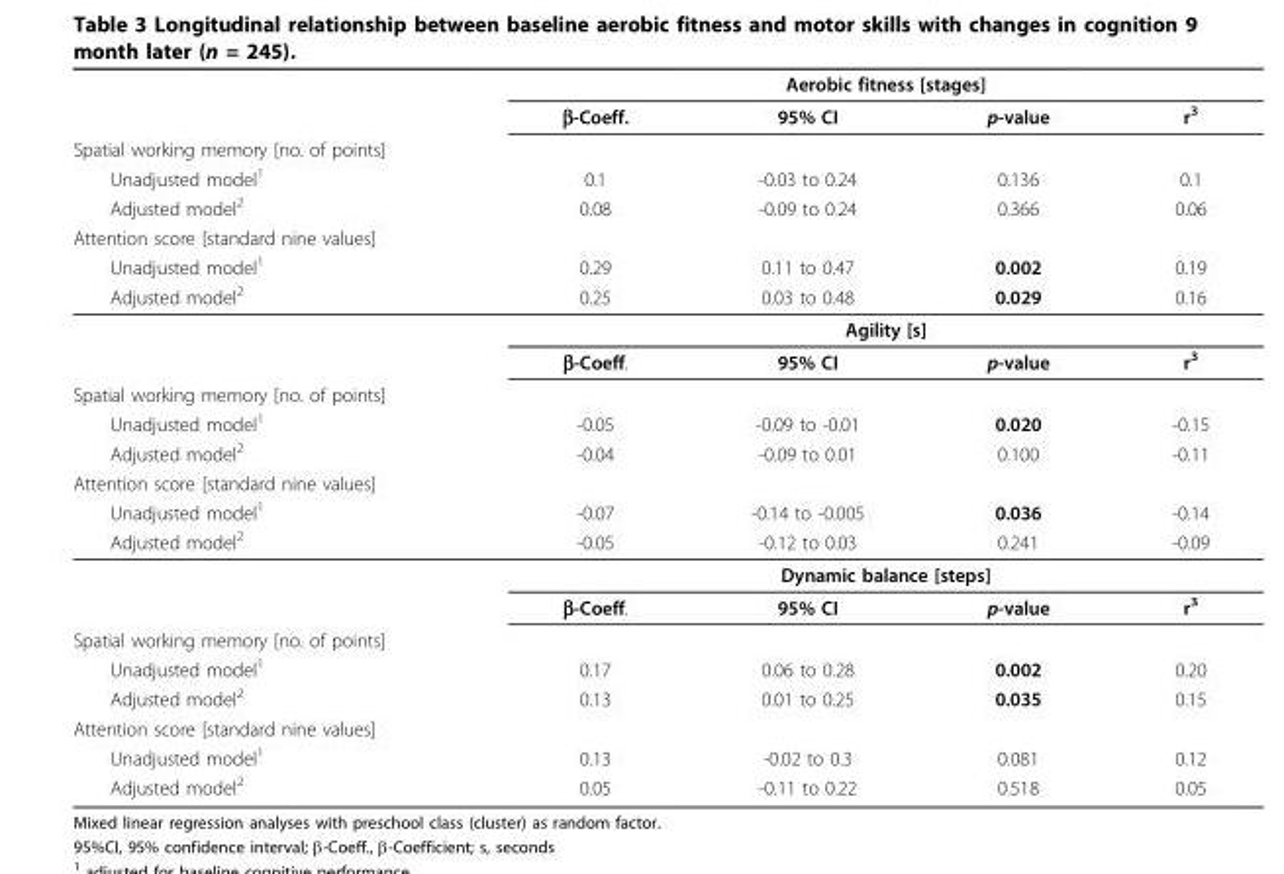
<table><thead><tr><td rowspan="8">Spatial working memory [no. of points] Unadjusted model1 Adjusted model2 Attention score [standard nine values] Unadjusted model1 Adjusted model2</td><td colspan="4">Aerobic fitness [stages]</td></tr><tr><td rowspan="7">β-Coeff. 0.1 0.08 0.29 0.25</td><td rowspan="7">95% CI -0.03 to 0.24 -0.09 to 0.24 0.11 to 0.47 0.03 to 0.48</td><td rowspan="7">p-value 0.136 0.366 0.002 0.029</td><td rowspan="7">r3 0.1 0.06 0.19 0.16</td></tr><tr></tr><tr></tr><tr></tr><tr></tr><tr></tr><tr></tr></thead><tbody><tr><td></td><td colspan="4">Agility [s]</td></tr><tr><td></td><td>β-Coeff.</td><td>95% CI</td><td>p-value</td><td>r<sup>3</sup></td></tr><tr><td colspan="5">Spatial working memory [no. of points]</td></tr><tr><td>Unadjusted model<sup>1</sup></td><td>-0.05</td><td>-0.09 to -0.01</td><td>0.020</td><td>-0.15</td></tr><tr><td>Adjusted model<sup>2</sup></td><td>-0.04</td><td>-0.09 to 0.01</td><td>0.100</td><td>-0.11</td></tr><tr><td colspan="5">Attention score [standard nine values]</td></tr><tr><td>Unadjusted model<sup>1</sup></td><td>-0.07</td><td>-0.14 to -0.005</td><td>0.036</td><td>-0.14</td></tr><tr><td rowspan="3">Adjusted model<sup>2</sup></td><td>-0.05</td><td>-0.12 to 0.03</td><td>0.241</td><td>-0.09</td></tr><tr><td colspan="4">Dynamic balance [steps]</td></tr><tr><td>β-Coeff.</td><td>95% CI</td><td>p-value</td><td>r<sup>3</sup></td></tr><tr><td colspan="5">Spatial working memory [no. of points]</td></tr><tr><td>Unadjusted model<sup>1</sup></td><td>0.17</td><td>0.06 to 0.28</td><td>0.002</td><td>0.20</td></tr><tr><td>Adjusted model<sup>2</sup></td><td>0.13</td><td>0.01 to 0.25</td><td>0.035</td><td>0.15</td></tr><tr><td colspan="5">Attention score [standard nine values]</td></tr><tr><td>Unadjusted model<sup>1</sup></td><td>0.13</td><td>-0.02 to 0.3</td><td>0.081</td><td>0.12</td></tr><tr><td>Adjusted model<sup>2</sup></td><td>0.05</td><td>-0.11 to 0.22</td><td>0.518</td><td>0.05</td></tr></tbody></table>